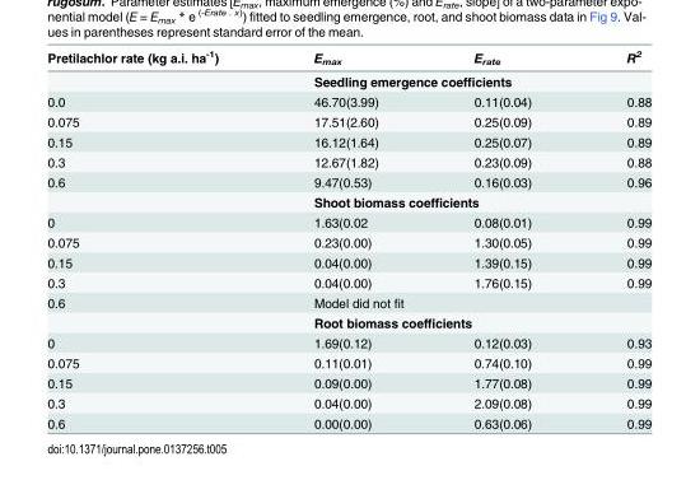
<table><thead><tr><td>Pretilachlor rate (kg a.i. ha<sup>-1</sup>)</td><td>E<sub>max</sub></td><td>E<sub>rate</sub></td><td>R<sup>2</sup></td></tr></thead><tbody><tr><td></td><td colspan="2">Seedling emergence coefficients</td><td></td></tr><tr><td>0.0</td><td>46.70(3.99)</td><td>0.11(0.04)</td><td>0.88</td></tr><tr><td>0.075</td><td>17.51(2.60)</td><td>0.25(0.09)</td><td>0.89</td></tr><tr><td>0.15</td><td>16.12(1.64)</td><td>0.25(0.07)</td><td>0.89</td></tr><tr><td>0.3</td><td>12.67(1.82)</td><td>0.23(0.09)</td><td>0.88</td></tr><tr><td rowspan="2">0.6</td><td>9.47(0.53)</td><td>0.16(0.03)</td><td>0.96</td></tr><tr><td colspan="2">Shoot biomass coefficients</td><td></td></tr><tr><td>0</td><td>1.63(0.02</td><td>0.08(0.01)</td><td>0.99</td></tr><tr><td>0.075</td><td>0.23(0.00)</td><td>1.30(0.05)</td><td>0.99</td></tr><tr><td>0.15</td><td>0.04(0.00)</td><td>1.39(0.15)</td><td>0.99</td></tr><tr><td>0.3</td><td>0.04(0.00)</td><td>1.76(0.15)</td><td>0.99</td></tr><tr><td rowspan="2">0.6</td><td colspan="3">Model did not fit</td></tr><tr><td colspan="2">Root biomass coefficients</td><td></td></tr><tr><td>0</td><td>1.69(0.12)</td><td>0.12(0.03)</td><td>0.93</td></tr><tr><td>0.075</td><td>0.11(0.01)</td><td>0.74(0.10)</td><td>0.99</td></tr><tr><td>0.15</td><td>0.09(0.00)</td><td>1.77(0.08)</td><td>0.99</td></tr><tr><td>0.3</td><td>0.04(0.00)</td><td>2.09(0.08)</td><td>0.99</td></tr><tr><td>0.6</td><td>0.00(0.00)</td><td>0.63(0.06)</td><td>0.99</td></tr></tbody></table>